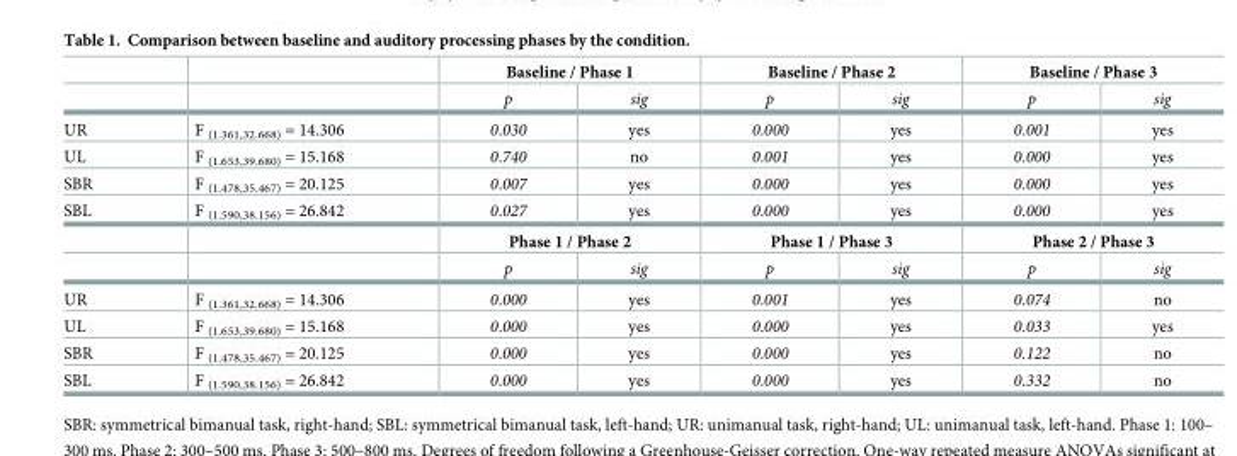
<table><thead><tr><td rowspan="2"></td><td rowspan="2"></td><td colspan="2">Baseline / Phase 1</td><td colspan="2">Baseline / Phase 2</td><td colspan="2">Baseline / Phase 3</td></tr><tr><td>p</td><td>sig</td><td>p</td><td>sig</td><td>p</td><td>sig</td></tr></thead><tbody><tr><td>UR</td><td>F <sub>(1.361,32.668)</sub> = 14.306</td><td>0.030</td><td>yes</td><td>0.000</td><td>yes</td><td>0.001</td><td>yes</td></tr><tr><td>UL</td><td>F <sub>(1.653,39.680)</sub> = 15.168</td><td>0.740</td><td>no</td><td>0.001</td><td>yes</td><td>0.000</td><td>yes</td></tr><tr><td>SBR</td><td>F <sub>(1.478,35.467)</sub> = 20.125</td><td>0.007</td><td>yes</td><td>0.000</td><td>yes</td><td>0.000</td><td>yes</td></tr><tr><td rowspan="3">SBL</td><td>F <sub>(1.590,38.156)</sub> = 26.842</td><td>0.027</td><td>yes</td><td>0.000</td><td>yes</td><td>0.000</td><td>yes</td></tr><tr><td></td><td colspan="2">Phase 1 / Phase 2</td><td colspan="2">Phase 1 / Phase 3</td><td colspan="2">Phase 2 / Phase 3</td></tr><tr><td></td><td>p</td><td>sig</td><td>p</td><td>sig</td><td>p</td><td>sig</td></tr><tr><td>UR</td><td>F <sub>(1.361,32.668)</sub> = 14.306</td><td>0.000</td><td>yes</td><td>0.001</td><td>yes</td><td>0.074</td><td>no</td></tr><tr><td>UL</td><td>F <sub>(1.653,39.680)</sub> = 15.168</td><td>0.000</td><td>yes</td><td>0.000</td><td>yes</td><td>0.033</td><td>yes</td></tr><tr><td>SBR</td><td>F <sub>(1.478,35.467)</sub> = 20.125</td><td>0.000</td><td>yes</td><td>0.000</td><td>yes</td><td>0.122</td><td>no</td></tr><tr><td>SBL</td><td>F <sub>(1.590,38.156)</sub> = 26.842</td><td>0.000</td><td>yes</td><td>0.000</td><td>yes</td><td>0.332</td><td>no</td></tr></tbody></table>